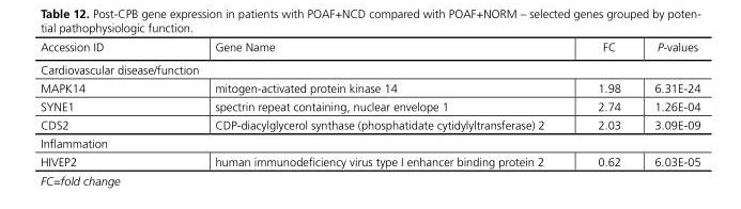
<table><thead><tr><td>Accession ID</td><td>Gene Name</td><td>FC</td><td>P-values</td></tr></thead><tbody><tr><td colspan="4">Cardiovascular disease/function</td></tr><tr><td>MAPK14</td><td>mitogen-activated protein kinase 14</td><td>1.98</td><td>6.31E-24</td></tr><tr><td>SYNE1</td><td>spectrin repeat containing, nuclear envelope 1</td><td>2.74</td><td>1.26E-04</td></tr><tr><td>CDS2</td><td>CDP-diacylglycerol synthase (phosphatidate cytidylyltransferase) 2</td><td>2.03</td><td>3.09E-09</td></tr><tr><td colspan="4">Inflammation</td></tr><tr><td>HIVEP2</td><td>human immunodeficiency virus type I enhancer binding protein 2</td><td>0.62</td><td>6.03E-05</td></tr></tbody></table>